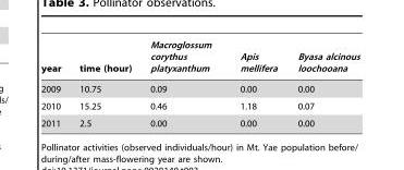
<table><thead><tr><td>year</td><td>time (hour)</td><td>Macroglossum corythus platyxanthum</td><td>Apis mellifera</td><td>Byasa alcinous loochooana</td></tr></thead><tbody><tr><td>2009</td><td>10.75</td><td>0.09</td><td>0.00</td><td>0.00</td></tr><tr><td>2010</td><td>15.25</td><td>0.46</td><td>1.18</td><td>0.07</td></tr><tr><td>2011</td><td>2.5</td><td>0.00</td><td>0.00</td><td>0.00</td></tr></tbody></table>